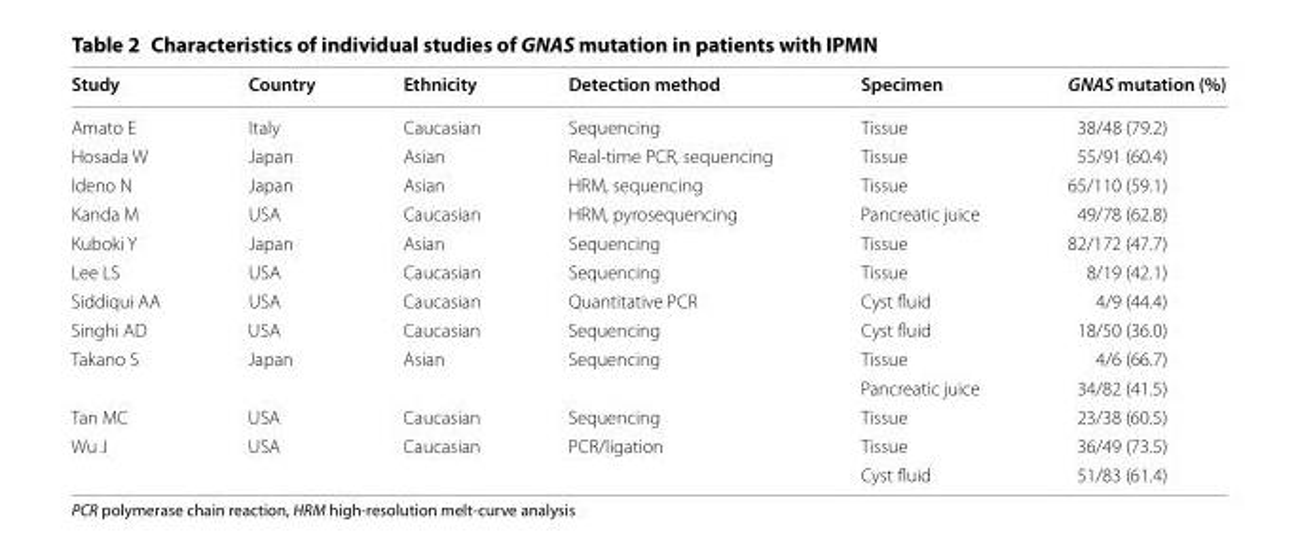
<table><thead><tr><td>Study</td><td>Country</td><td>Ethnicity</td><td>Detection method</td><td>Specimen</td><td>GNAS mutation (%)</td></tr></thead><tbody><tr><td>Amato E</td><td>Italy</td><td>Caucasian</td><td>Sequencing</td><td>Tissue</td><td>38/48 (79.2)</td></tr><tr><td>Hosada W</td><td>Japan</td><td>Asian</td><td>Real‑time PCR, sequencing</td><td>Tissue</td><td>55/91 (60.4)</td></tr><tr><td>Ideno N</td><td>Japan</td><td>Asian</td><td>HRM, sequencing</td><td>Tissue</td><td>65/110 (59.1)</td></tr><tr><td>Kanda M</td><td>USA</td><td>Caucasian</td><td>HRM, pyrosequencing</td><td>Pancreatic juice</td><td>49/78 (62.8)</td></tr><tr><td>Kuboki Y</td><td>Japan</td><td>Asian</td><td>Sequencing</td><td>Tissue</td><td>82/172 (47.7)</td></tr><tr><td>Lee LS</td><td>USA</td><td>Caucasian</td><td>Sequencing</td><td>Tissue</td><td>8/19 (42.1)</td></tr><tr><td>Siddiqui AA</td><td>USA</td><td>Caucasian</td><td>Quantitative PCR</td><td>Cyst fluid</td><td>4/9 (44.4)</td></tr><tr><td>Singhi AD</td><td>USA</td><td>Caucasian</td><td>Sequencing</td><td>Cyst fluid</td><td>18/50 (36.0)</td></tr><tr><td rowspan="2">Takano S</td><td>Japan</td><td>Asian</td><td>Sequencing</td><td>Tissue</td><td>4/6 (66.7)</td></tr><tr><td></td><td></td><td></td><td>Pancreatic juice</td><td>34/82 (41.5)</td></tr><tr><td>Tan MC</td><td>USA</td><td>Caucasian</td><td>Sequencing</td><td>Tissue</td><td>23/38 (60.5)</td></tr><tr><td rowspan="2">Wu J</td><td>USA</td><td>Caucasian</td><td>PCR/ligation</td><td>Tissue</td><td>36/49 (73.5)</td></tr><tr><td></td><td></td><td></td><td>Cyst fluid</td><td>51/83 (61.4)</td></tr></tbody></table>